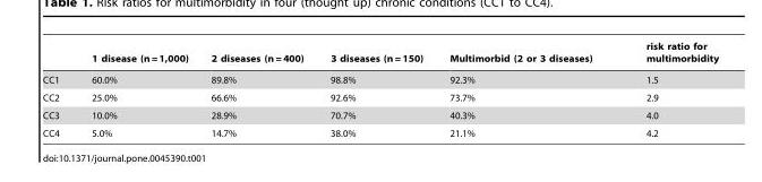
<table><thead><tr><td></td><td>1 disease (n = 1,000)</td><td>2 diseases (n = 400)</td><td>3 diseases (n = 150)</td><td>Multimorbid (2 or 3 diseases)</td><td>risk ratio for multimorbidity</td></tr></thead><tbody><tr><td>CC1</td><td>60.0%</td><td>89.8%</td><td>98.8%</td><td>92.3%</td><td>1.5</td></tr><tr><td>CC2</td><td>25.0%</td><td>66.6%</td><td>92.6%</td><td>73.7%</td><td>2.9</td></tr><tr><td>CC3</td><td>10.0%</td><td>28.9%</td><td>70.7%</td><td>40.3%</td><td>4.0</td></tr><tr><td>CC4</td><td>5.0%</td><td>14.7%</td><td>38.0%</td><td>21.1%</td><td>4.2</td></tr></tbody></table>